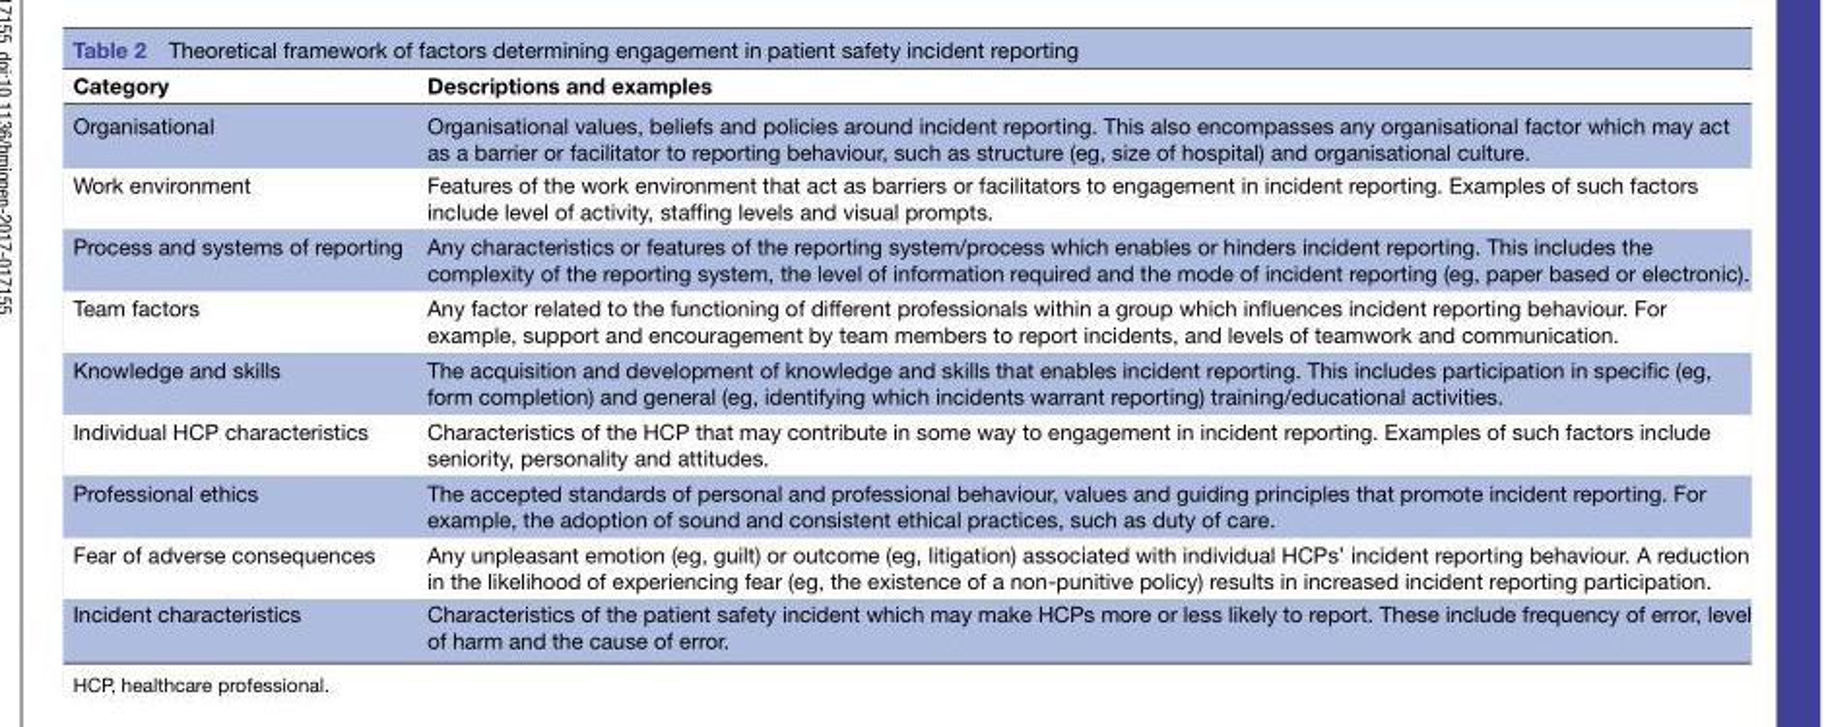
<table><thead><tr><td>Category</td><td>Descriptions and examples</td></tr></thead><tbody><tr><td>Organisational</td><td>Organisational values, beliefs and policies around incident reporting. This also encompasses any organisational factor which may act as a barrier or facilitator to reporting behaviour, such as structure (eg, size of hospital) and organisational culture.</td></tr><tr><td>Work environment</td><td>Features of the work environment that act as barriers or facilitators to engagement in incident reporting. Examples of such factors include level of activity, staffing levels and visual prompts.</td></tr><tr><td>Process and systems of reporting</td><td>Any characteristics or features of the reporting system/process which enables or hinders incident reporting. This includes the complexity of the reporting system, the level of information required and the mode of incident reporting (eg, paper based or electronic).</td></tr><tr><td>Team factors</td><td>Any factor related to the functioning of different professionals within a group which influences incident reporting behaviour. For example, support and encouragement by team members to report incidents, and levels of teamwork and communication.</td></tr><tr><td>Knowledge and skills</td><td>The acquisition and development of knowledge and skills that enables incident reporting. This includes participation in specific (eg, form completion) and general (eg, identifying which incidents warrant reporting) training/educational activities.</td></tr><tr><td>Individual HCP characteristics</td><td>Characteristics of the HCP that may contribute in some way to engagement in incident reporting. Examples of such factors include seniority, personality and attitudes.</td></tr><tr><td>Professional ethics</td><td>The accepted standards of personal and professional behaviour, values and guiding principles that promote incident reporting. For example, the adoption of sound and consistent ethical practices, such as duty of care.</td></tr><tr><td>Fear of adverse consequences</td><td>Any unpleasant emotion (eg, guilt) or outcome (eg, litigation) associated with individual HCPs’ incident reporting behaviour. A reduction in the likelihood of experiencing fear (eg, the existence of a non-punitive policy) results in increased incident reporting participation.</td></tr><tr><td>Incident characteristics</td><td>Characteristics of the patient safety incident which may make HCPs more or less likely to report. These include frequency of error, level of harm and the cause of error.</td></tr></tbody></table>